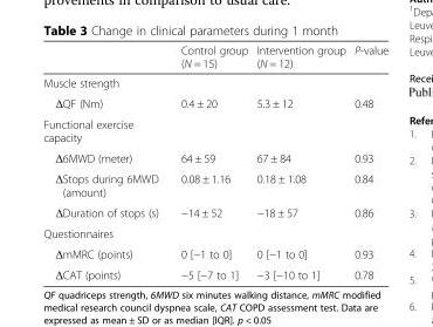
<table><thead><tr><td></td><td>Control group (N = 15)</td><td>Intervention group (N = 12)</td><td>P-value</td></tr></thead><tbody><tr><td colspan="4">Muscle strength</td></tr><tr><td>ΔQF (Nm)</td><td>0.4 ± 20</td><td>5.3 ± 12</td><td>0.48</td></tr><tr><td colspan="4">Functional exercise capacity</td></tr><tr><td>Δ6MWD (meter)</td><td>64 ± 59</td><td>67 ± 84</td><td>0.93</td></tr><tr><td>ΔStops during 6MWD (amount)</td><td>0.08 ± 1.16</td><td>0.18 ± 1.08</td><td>0.84</td></tr><tr><td>ΔDuration of stops (s)</td><td>−14 ± 52</td><td>−18 ± 57</td><td>0.86</td></tr><tr><td colspan="4">Questionnaires</td></tr><tr><td>ΔmMRC (points)</td><td>0 [−1 to 0]</td><td>0 [−1 to 0]</td><td>0.93</td></tr><tr><td>ΔCAT (points)</td><td>−5 [−7 to 1]</td><td>−3 [−10 to 1]</td><td>0.78</td></tr></tbody></table>